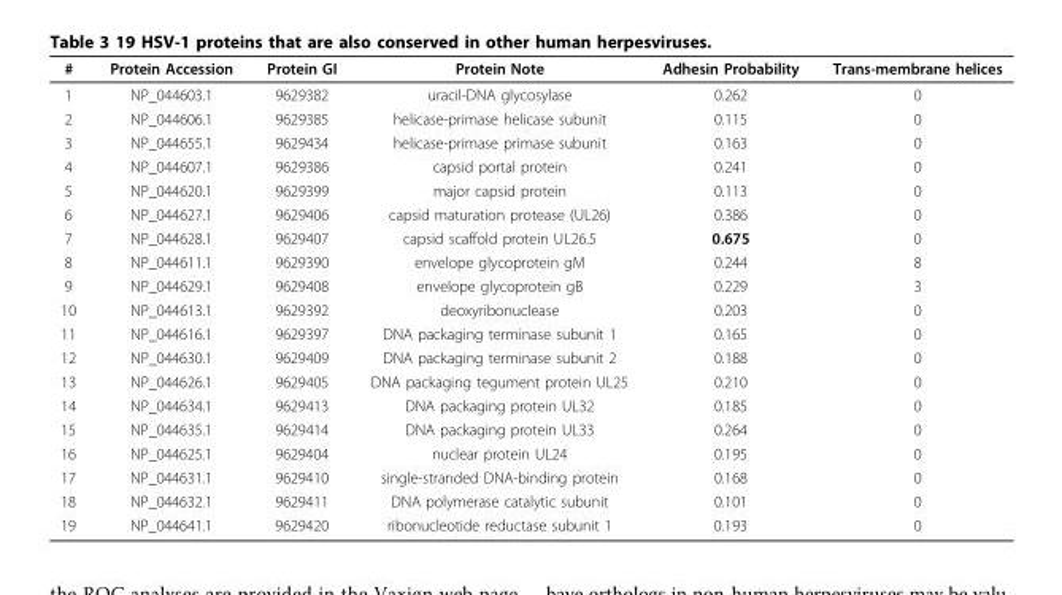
<table><thead><tr><td>#</td><td>Protein Accession</td><td>Protein GI</td><td>Protein Note</td><td>Adhesin Probability</td><td>Trans-membrane helices</td></tr></thead><tbody><tr><td>1</td><td>NP_044603.1</td><td>9629382</td><td>uracil-DNA glycosylase</td><td>0.262</td><td>0</td></tr><tr><td>2</td><td>NP_044606.1</td><td>9629385</td><td>helicase-primase helicase subunit</td><td>0.115</td><td>0</td></tr><tr><td>3</td><td>NP_044655.1</td><td>9629434</td><td>helicase-primase primase subunit</td><td>0.163</td><td>0</td></tr><tr><td>4</td><td>NP_044607.1</td><td>9629386</td><td>capsid portal protein</td><td>0.241</td><td>0</td></tr><tr><td>5</td><td>NP_044620.1</td><td>9629399</td><td>major capsid protein</td><td>0.113</td><td>0</td></tr><tr><td>6</td><td>NP_044627.1</td><td>9629406</td><td>capsid maturation protease (UL26)</td><td>0.386</td><td>0</td></tr><tr><td>7</td><td>NP_044628.1</td><td>9629407</td><td>capsid scaffold protein UL26.5</td><td>0.675</td><td>0</td></tr><tr><td>8</td><td>NP_044611.1</td><td>9629390</td><td>envelope glycoprotein gM</td><td>0.244</td><td>8</td></tr><tr><td>9</td><td>NP_044629.1</td><td>9629408</td><td>envelope glycoprotein gB</td><td>0.229</td><td>3</td></tr><tr><td>10</td><td>NP_044613.1</td><td>9629392</td><td>deoxyribonuclease</td><td>0.203</td><td>0</td></tr><tr><td>11</td><td>NP_044616.1</td><td>9629397</td><td>DNA packaging terminase subunit 1</td><td>0.165</td><td>0</td></tr><tr><td>12</td><td>NP_044630.1</td><td>9629409</td><td>DNA packaging terminase subunit 2</td><td>0.188</td><td>0</td></tr><tr><td>13</td><td>NP_044626.1</td><td>9629405</td><td>DNA packaging tegument protein UL25</td><td>0.210</td><td>0</td></tr><tr><td>14</td><td>NP_044634.1</td><td>9629413</td><td>DNA packaging protein UL32</td><td>0.185</td><td>0</td></tr><tr><td>15</td><td>NP_044635.1</td><td>9629414</td><td>DNA packaging protein UL33</td><td>0.264</td><td>0</td></tr><tr><td>16</td><td>NP_044625.1</td><td>9629404</td><td>nuclear protein UL24</td><td>0.195</td><td>0</td></tr><tr><td>17</td><td>NP_044631.1</td><td>9629410</td><td>single-stranded DNA-binding protein</td><td>0.168</td><td>0</td></tr><tr><td>18</td><td>NP_044632.1</td><td>9629411</td><td>DNA polymerase catalytic subunit</td><td>0.101</td><td>0</td></tr><tr><td>19</td><td>NP_044641.1</td><td>9629420</td><td>ribonucleotide reductase subunit 1</td><td>0.193</td><td>0</td></tr></tbody></table>